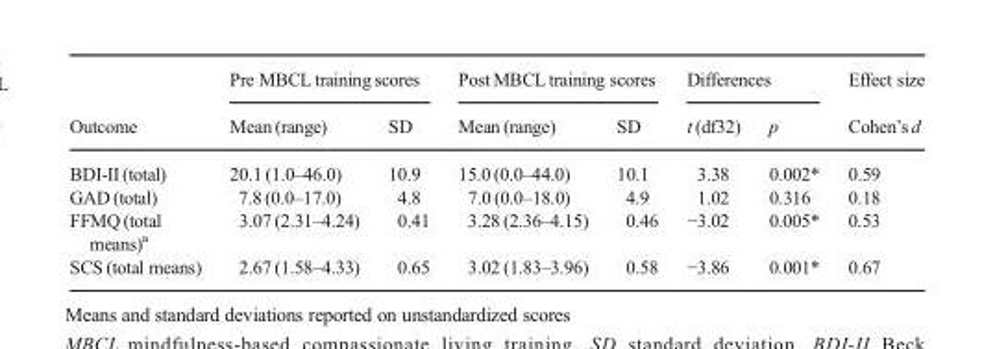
<table><thead><tr><td rowspan="2">Outcome</td><td colspan="2">Pre MBCL training scores</td><td colspan="2">Post MBCL training scores</td><td colspan="2">Differences</td><td rowspan="2">Effect size Cohen’s d</td></tr><tr><td>Mean (range)</td><td>SD</td><td>Mean (range)</td><td>SD</td><td>t (df32)</td><td>p</td></tr></thead><tbody><tr><td>BDI-II (total)</td><td>20.1 (1.0–46.0)</td><td>10.9</td><td>15.0 (0.0–44.0)</td><td>10.1</td><td>3.38</td><td>0.002*</td><td>0.59</td></tr><tr><td>GAD (total)</td><td>7.8 (0.0–17.0)</td><td>4.8</td><td>7.0 (0.0–18.0)</td><td>4.9</td><td>1.02</td><td>0.316</td><td>0.18</td></tr><tr><td>FFMQ (total means)<sup>a</sup></td><td>3.07 (2.31–4.24)</td><td>0.41</td><td>3.28 (2.36–4.15)</td><td>0.46</td><td>−3.02</td><td>0.005*</td><td>0.53</td></tr><tr><td>SCS (total means)</td><td>2.67 (1.58–4.33)</td><td>0.65</td><td>3.02 (1.83–3.96)</td><td>0.58</td><td>−3.86</td><td>0.001*</td><td>0.67</td></tr></tbody></table>